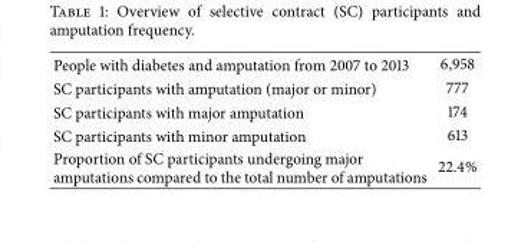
<table><tbody><tr><td>People with diabetes and amputation from 2007 to 2013</td><td>6,958</td></tr><tr><td>SC participants with amputation (major or minor)</td><td>777</td></tr><tr><td>SC participants with major amputation</td><td>174</td></tr><tr><td>SC participants with minor amputation</td><td>613</td></tr><tr><td>Proportion of SC participants undergoing major amputations compared to the total number of amputations</td><td>22.4%</td></tr></tbody></table>